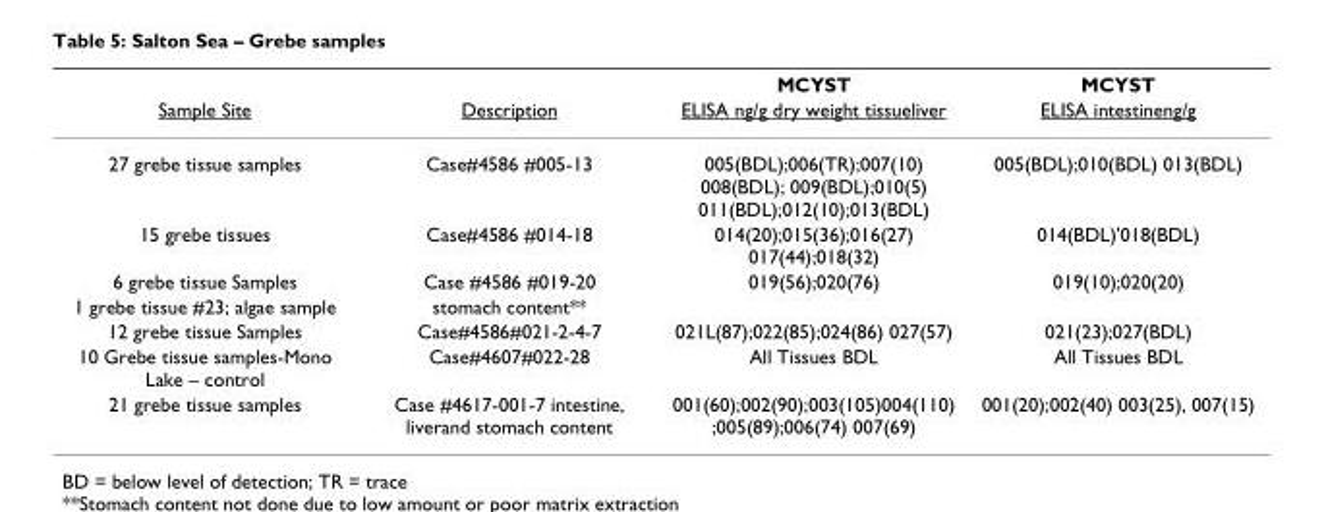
<table><thead><tr><td rowspan="2">Sample Site</td><td rowspan="2">Description</td><td rowspan="2">MCYST ELISA ng/g dry weight tissueliver</td><td rowspan="2">MCYST ELISA intestineng/g</td></tr><tr></tr></thead><tbody><tr><td>27 grebe tissue samples</td><td>Case#4586 #005-13</td><td>005(BDL);006(TR);007(10) 008(BDL); 009(BDL);010(5) 011(BDL);012(10);013(BDL)</td><td>005(BDL);010(BDL) 013(BDL)</td></tr><tr><td>15 grebe tissues</td><td>Case#4586 #014-18</td><td>014(20);015(36);016(27) 017(44);018(32)</td><td>014(BDL)&#x27;018(BDL)</td></tr><tr><td>6 grebe tissue Samples</td><td>Case #4586 #019-20</td><td>019(56);020(76)</td><td>019(10);020(20)</td></tr><tr><td>1 grebe tissue #23; algae sample</td><td>stomach content**</td><td></td><td></td></tr><tr><td>12 grebe tissue Samples</td><td>Case#4586#021-2-4-7</td><td>021L(87);022(85);024(86) 027(57)</td><td>021(23);027(BDL)</td></tr><tr><td>10 Grebe tissue samples-Mono Lake – control</td><td>Case#4607#022-28</td><td>All Tissues BDL</td><td>All Tissues BDL</td></tr><tr><td>21 grebe tissue samples</td><td>Case #4617-001-7 intestine, liverand stomach content</td><td>001(60);002(90);003(105)004(110) ;005(89);006(74) 007(69)</td><td>001(20);002(40) 003(25), 007(15)</td></tr></tbody></table>